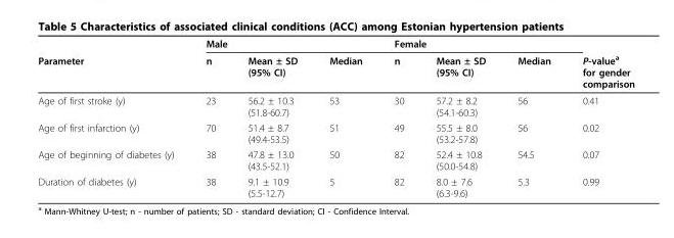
<table><thead><tr><td rowspan="2">Parameter</td><td colspan="3">Male</td><td colspan="3">Female</td><td rowspan="2">P-value<sup>a</sup> for gender comparison</td></tr><tr><td>n</td><td>Mean ± SD (95% CI)</td><td>Median</td><td>n</td><td>Mean ± SD (95% CI)</td><td>Median</td></tr></thead><tbody><tr><td>Age of first stroke (y)</td><td>23</td><td>56.2 ± 10.3 (51.8-60.7)</td><td>53</td><td>30</td><td>57.2 ± 8.2 (54.1-60.3)</td><td>56</td><td>0.41</td></tr><tr><td>Age of first infarction (y)</td><td>70</td><td>51.4 ± 8.7 (49.4-53.5)</td><td>51</td><td>49</td><td>55.5 ± 8.0 (53.2-57.8)</td><td>56</td><td>0.02</td></tr><tr><td>Age of beginning of diabetes (y)</td><td>38</td><td>47.8 ± 13.0 (43.5-52.1)</td><td>50</td><td>82</td><td>52.4 ± 10.8 (50.0-54.8)</td><td>54.5</td><td>0.07</td></tr><tr><td>Duration of diabetes (y)</td><td>38</td><td>9.1 ± 10.9 (5.5-12.7)</td><td>5</td><td>82</td><td>8.0 ± 7.6 (6.3-9.6)</td><td>5.3</td><td>0.99</td></tr></tbody></table>